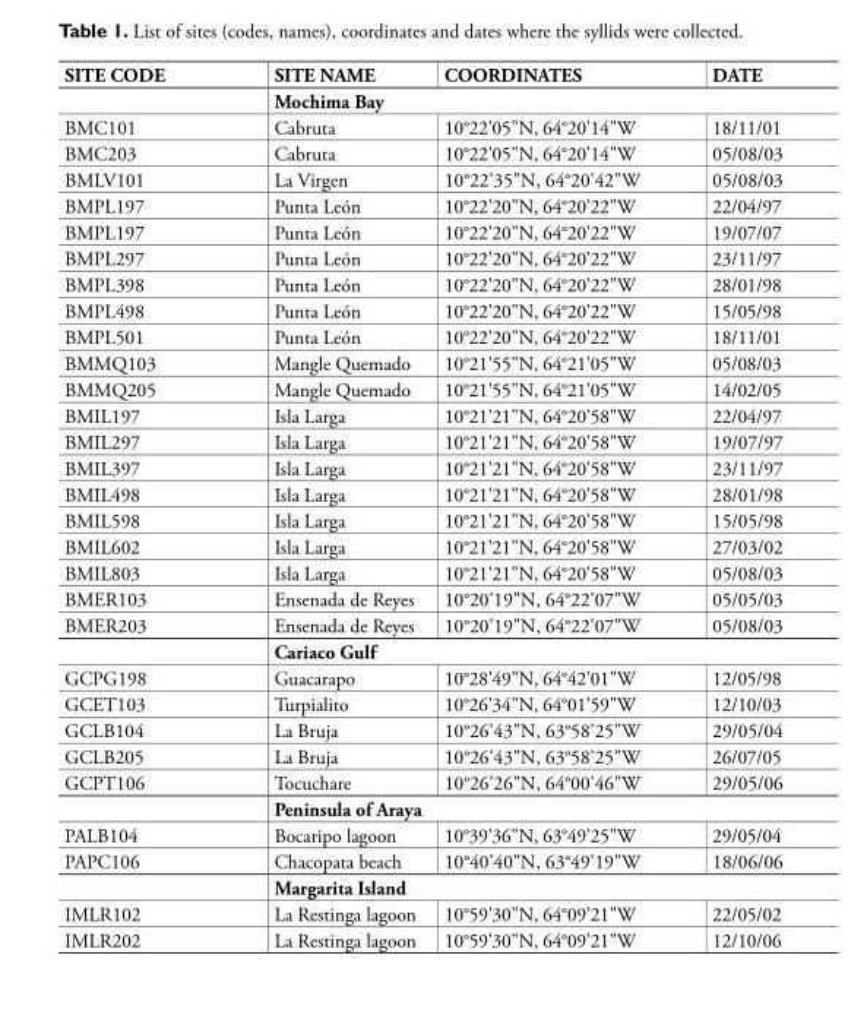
<table><thead><tr><td>SITE CODE</td><td>SITE NAME</td><td>COORDINATES</td><td>DATE</td></tr></thead><tbody><tr><td></td><td colspan="3">Mochima Bay</td></tr><tr><td>BMC101</td><td>Cabruta</td><td>10°22&#x27;05&quot;N, 64°20&#x27;14&quot;W</td><td>18/11/01</td></tr><tr><td>BMC203</td><td>Cabruta</td><td>10°22&#x27;05&quot;N, 64°20&#x27;14&quot;W</td><td>05/08/03</td></tr><tr><td>BMLV101</td><td>La Virgen</td><td>10°22&#x27;35&quot;N, 64°20&#x27;42&quot;W</td><td>05/08/03</td></tr><tr><td>BMPL197</td><td>Punta León</td><td>10°22&#x27;20&quot;N, 64°20&#x27;22&quot;W</td><td>22/04/97</td></tr><tr><td>BMPL197</td><td>Punta León</td><td>10°22&#x27;20&quot;N, 64°20&#x27;22&quot;W</td><td>19/07/07</td></tr><tr><td>BMPL297</td><td>Punta León</td><td>10°22&#x27;20&quot;N, 64°20&#x27;22&quot;W</td><td>23/11/97</td></tr><tr><td>BMPL398</td><td>Punta León</td><td>10°22&#x27;20&quot;N, 64°20&#x27;22&quot;W</td><td>28/01/98</td></tr><tr><td>BMPL498</td><td>Punta León</td><td>10°22&#x27;20&quot;N, 64°20&#x27;22&quot;W</td><td>15/05/98</td></tr><tr><td>BMPL501</td><td>Punta León</td><td>10°22&#x27;20&quot;N, 64°20&#x27;22&quot;W</td><td>18/11/01</td></tr><tr><td>BMMQ103</td><td>Mangle Quemado</td><td>10°21&#x27;55&quot;N, 64°21&#x27;05&quot;W</td><td>05/08/03</td></tr><tr><td>BMMQ205</td><td>Mangle Quemado</td><td>10°21&#x27;55&quot;N, 64°21&#x27;05&quot;W</td><td>14/02/05</td></tr><tr><td>BMIL197</td><td>Isla Larga</td><td>10°21&#x27;21&quot;N, 64°20&#x27;58&quot;W</td><td>22/04/97</td></tr><tr><td>BMIL297</td><td>Isla Larga</td><td>10°21&#x27;21&quot;N, 64°20&#x27;58&quot;W</td><td>19/07/97</td></tr><tr><td>BMIL397</td><td>Isla Larga</td><td>10°21&#x27;21&quot;N, 64°20&#x27;58&quot;W</td><td>23/11/97</td></tr><tr><td>BMIL498</td><td>Isla Larga</td><td>10°21&#x27;21&quot;N, 64°20&#x27;58&quot;W</td><td>28/01/98</td></tr><tr><td>BMIL598</td><td>Isla Larga</td><td>10°21&#x27;21&quot;N, 64°20&#x27;58&quot;W</td><td>15/05/98</td></tr><tr><td>BMIL602</td><td>Isla Larga</td><td>10°21&#x27;21&quot;N, 64°20&#x27;58&quot;W</td><td>27/03/02</td></tr><tr><td>BMIL803</td><td>Isla Larga</td><td>10°21&#x27;21&quot;N, 64°20&#x27;58&quot;W</td><td>05/08/03</td></tr><tr><td>BMER103</td><td>Ensenada de Reyes</td><td>10°20&#x27;19&quot;N, 64°22&#x27;07&quot;W</td><td>05/05/03</td></tr><tr><td rowspan="2">BMER203</td><td>Ensenada de Reyes</td><td>10°20&#x27;19&quot;N, 64°22&#x27;07&quot;W</td><td>05/08/03</td></tr><tr><td colspan="3">Cariaco Gulf</td></tr><tr><td>GCPG198</td><td>Guacarapo</td><td>10°28&#x27;49&quot;N, 64°42&#x27;01&quot;W</td><td>12/05/98</td></tr><tr><td>GCET103</td><td>Turpialito</td><td>10°26&#x27;34&quot;N, 64°01&#x27;59&quot;W</td><td>12/10/03</td></tr><tr><td>GCLB104</td><td>La Bruja</td><td>10°26&#x27;43&quot;N, 63°58&#x27;25&quot;W</td><td>29/05/04</td></tr><tr><td>GCLB205</td><td>La Bruja</td><td>10°26&#x27;43&quot;N, 63°58&#x27;25&quot;W</td><td>26/07/05</td></tr><tr><td rowspan="2">GCPT106</td><td>Tocuchare</td><td>10°26&#x27;26&quot;N, 64°00&#x27;46&quot;W</td><td>29/05/06</td></tr><tr><td colspan="3">Peninsula of Araya</td></tr><tr><td>PALB104</td><td>Bocaripo lagoon</td><td>10°39&#x27;36&quot;N, 63°49&#x27;25&quot;W</td><td>29/05/04</td></tr><tr><td rowspan="2">PAPC106</td><td>Chacopata beach</td><td>10°40&#x27;40&quot;N, 63°49&#x27;19&quot;W</td><td>18/06/06</td></tr><tr><td colspan="3">Margarita Island</td></tr><tr><td>IMLR102</td><td>La Restinga lagoon</td><td>10°59&#x27;30&quot;N, 64°09&#x27;21&quot;W</td><td>22/05/02</td></tr><tr><td>IMLR202</td><td>La Restinga lagoon</td><td>10°59&#x27;30&quot;N, 64°09&#x27;21&quot;W</td><td>12/10/06</td></tr></tbody></table>